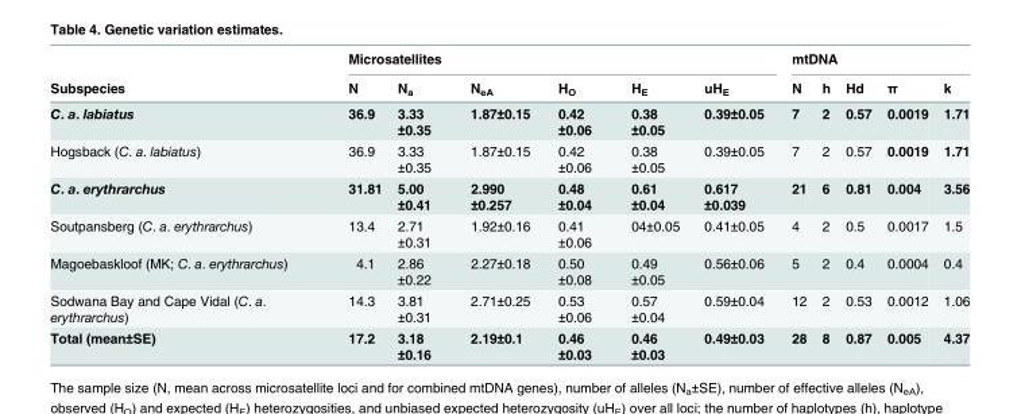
<table><thead><tr><td rowspan="2">Subspecies</td><td colspan="6">Microsatellites</td><td colspan="5">mtDNA</td></tr><tr><td>N</td><td>N<sub>a</sub></td><td>N<sub>eA</sub></td><td>H<sub>O</sub></td><td>H<sub>E</sub></td><td>uH<sub>E</sub></td><td>N</td><td>h</td><td>Hd</td><td>π</td><td>k</td></tr></thead><tbody><tr><td>C. a. labiatus</td><td>36.9</td><td>3.33 ±0.35</td><td>1.87±0.15</td><td>0.42 ±0.06</td><td>0.38 ±0.05</td><td>0.39±0.05</td><td>7</td><td>2</td><td>0.57</td><td>0.0019</td><td>1.71</td></tr><tr><td>Hogsback (C. a. labiatus)</td><td>36.9</td><td>3.33 ±0.35</td><td>1.87±0.15</td><td>0.42 ±0.06</td><td>0.38 ±0.05</td><td>0.39±0.05</td><td>7</td><td>2</td><td>0.57</td><td>0.0019</td><td>1.71</td></tr><tr><td>C. a. erythrarchus</td><td>31.81</td><td>5.00 ±0.41</td><td>2.990 ±0.257</td><td>0.48 ±0.04</td><td>0.61 ±0.04</td><td>0.617 ±0.039</td><td>21</td><td>6</td><td>0.81</td><td>0.004</td><td>3.56</td></tr><tr><td>Soutpansberg (C. a. erythrarchus)</td><td>13.4</td><td>2.71 ±0.31</td><td>1.92±0.16</td><td>0.41 ±0.06</td><td>04±0.05</td><td>0.41±0.05</td><td>4</td><td>2</td><td>0.5</td><td>0.0017</td><td>1.5</td></tr><tr><td>Magoebaskloof (MK; C. a. erythrarchus)</td><td>4.1</td><td>2.86 ±0.22</td><td>2.27±0.18</td><td>0.50 ±0.08</td><td>0.49 ±0.05</td><td>0.56±0.06</td><td>5</td><td>2</td><td>0.4</td><td>0.0004</td><td>0.4</td></tr><tr><td>Sodwana Bay and Cape Vidal (C. a. erythrarchus)</td><td>14.3</td><td>3.81 ±0.31</td><td>2.71±0.25</td><td>0.53 ±0.06</td><td>0.57 ±0.04</td><td>0.59±0.04</td><td>12</td><td>2</td><td>0.53</td><td>0.0012</td><td>1.06</td></tr><tr><td>Total (mean±SE)</td><td>17.2</td><td>3.18 ±0.16</td><td>2.19±0.1</td><td>0.46 ±0.03</td><td>0.46 ±0.03</td><td>0.49±0.03</td><td>28</td><td>8</td><td>0.87</td><td>0.005</td><td>4.37</td></tr></tbody></table>